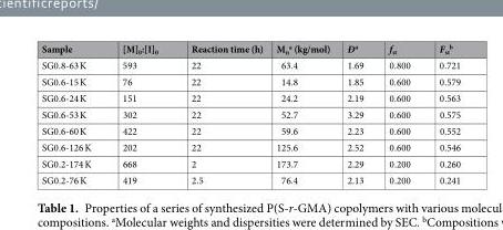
<table><thead><tr><td>Sample</td><td>[M]<sub>0</sub>:[I]<sub>0</sub></td><td>Reaction time (h)</td><td>M<sub>n</sub> <sup>a</sup> (kg/mol)</td><td>Ð<sup>a</sup></td><td>f<sub>st</sub></td><td>F<sub>st</sub> <sup>b</sup></td></tr></thead><tbody><tr><td>SG0.8-63 K</td><td>593</td><td>22</td><td>63.4</td><td>1.69</td><td>0.800</td><td>0.721</td></tr><tr><td>SG0.6-15 K</td><td>76</td><td>22</td><td>14.8</td><td>1.85</td><td>0.600</td><td>0.579</td></tr><tr><td>SG0.6-24 K</td><td>151</td><td>22</td><td>24.2</td><td>2.19</td><td>0.600</td><td>0.563</td></tr><tr><td>SG0.6-53 K</td><td>302</td><td>22</td><td>52.7</td><td>3.29</td><td>0.600</td><td>0.575</td></tr><tr><td>SG0.6-60 K</td><td>422</td><td>22</td><td>59.6</td><td>2.23</td><td>0.600</td><td>0.552</td></tr><tr><td>SG0.6-126 K</td><td>202</td><td>22</td><td>125.6</td><td>2.52</td><td>0.600</td><td>0.546</td></tr><tr><td>SG0.2-174 K</td><td>668</td><td>2</td><td>173.7</td><td>2.29</td><td>0.200</td><td>0.260</td></tr><tr><td>SG0.2-76 K</td><td>419</td><td>2.5</td><td>76.4</td><td>2.13</td><td>0.200</td><td>0.241</td></tr></tbody></table>